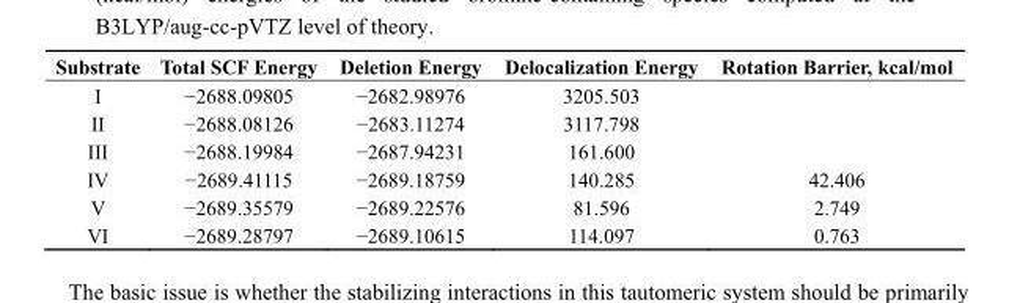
<table><thead><tr><td>Substrate</td><td>Total SCF Energy</td><td>Deletion Energy</td><td>Delocalization Energy</td><td>Rotation Barrier, kcal/mol</td></tr></thead><tbody><tr><td>I</td><td>−2688.09805</td><td>−2682.98976</td><td>3205.503</td><td></td></tr><tr><td>II</td><td>−2688.08126</td><td>−2683.11274</td><td>3117.798</td><td></td></tr><tr><td>III</td><td>−2688.19984</td><td>−2687.94231</td><td>161.600</td><td></td></tr><tr><td>IV</td><td>−2689.41115</td><td>−2689.18759</td><td>140.285</td><td>42.406</td></tr><tr><td>V</td><td>−2689.35579</td><td>−2689.22576</td><td>81.596</td><td>2.749</td></tr><tr><td>VI</td><td>−2689.28797</td><td>−2689.10615</td><td>114.097</td><td>0.763</td></tr></tbody></table>